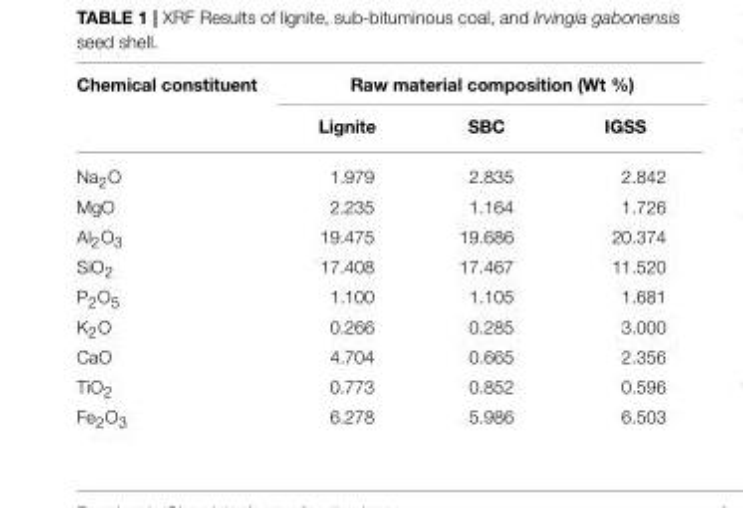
<table><thead><tr><td rowspan="2">Chemical constituent</td><td colspan="3">Raw material composition (Wt %)</td></tr><tr><td>Lignite</td><td>SBC</td><td>IGSS</td></tr></thead><tbody><tr><td>Na<sub>2</sub>O</td><td>1.979</td><td>2.835</td><td>2.842</td></tr><tr><td>MgO</td><td>2.235</td><td>1.164</td><td>1.726</td></tr><tr><td>Al<sub>2</sub>O<sub>3</sub></td><td>19.475</td><td>19.686</td><td>20.374</td></tr><tr><td>SiO<sub>2</sub></td><td>17.408</td><td>17.467</td><td>11.520</td></tr><tr><td>P<sub>2</sub>O<sub>5</sub></td><td>1.100</td><td>1.105</td><td>1.681</td></tr><tr><td>K<sub>2</sub>O</td><td>0.266</td><td>0.285</td><td>3.000</td></tr><tr><td>CaO</td><td>4.704</td><td>0.665</td><td>2.356</td></tr><tr><td>TiO<sub>2</sub></td><td>0.773</td><td>0.852</td><td>0.596</td></tr><tr><td>Fe<sub>2</sub>O<sub>3</sub></td><td>6.278</td><td>5.986</td><td>6.503</td></tr></tbody></table>